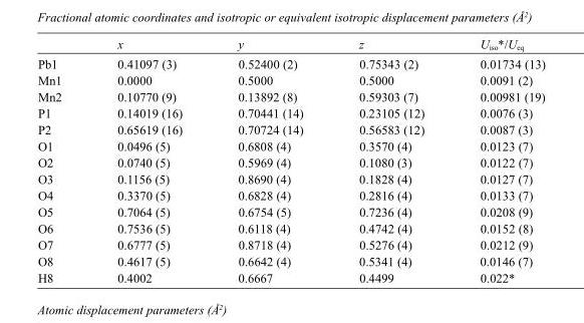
<table><thead><tr><td></td><td>x</td><td>y</td><td>z</td><td>U<sub>iso</sub>*/U<sub>eq</sub></td></tr></thead><tbody><tr><td>Pb1</td><td>0.41097 (3)</td><td>0.52400 (2)</td><td>0.75343 (2)</td><td>0.01734 (13)</td></tr><tr><td>Mn1</td><td>0.0000</td><td>0.5000</td><td>0.5000</td><td>0.0091 (2)</td></tr><tr><td>Mn2</td><td>0.10770 (9)</td><td>0.13892 (8)</td><td>0.59303 (7)</td><td>0.00981 (19)</td></tr><tr><td>P1</td><td>0.14019 (16)</td><td>0.70441 (14)</td><td>0.23105 (12)</td><td>0.0076 (3)</td></tr><tr><td>P2</td><td>0.65619 (16)</td><td>0.70724 (14)</td><td>0.56583 (12)</td><td>0.0087 (3)</td></tr><tr><td>O1</td><td>0.0496 (5)</td><td>0.6808 (4)</td><td>0.3570 (4)</td><td>0.0123 (7)</td></tr><tr><td>O2</td><td>0.0740 (5)</td><td>0.5969 (4)</td><td>0.1080 (3)</td><td>0.0122 (7)</td></tr><tr><td>O3</td><td>0.1156 (5)</td><td>0.8690 (4)</td><td>0.1828 (4)</td><td>0.0127 (7)</td></tr><tr><td>O4</td><td>0.3370 (5)</td><td>0.6828 (4)</td><td>0.2816 (4)</td><td>0.0133 (7)</td></tr><tr><td>O5</td><td>0.7064 (5)</td><td>0.6754 (5)</td><td>0.7236 (4)</td><td>0.0208 (9)</td></tr><tr><td>O6</td><td>0.7536 (5)</td><td>0.6118 (4)</td><td>0.4742 (4)</td><td>0.0152 (8)</td></tr><tr><td>O7</td><td>0.6777 (5)</td><td>0.8718 (4)</td><td>0.5276 (4)</td><td>0.0212 (9)</td></tr><tr><td>O8</td><td>0.4617 (5)</td><td>0.6642 (4)</td><td>0.5341 (4)</td><td>0.0146 (7)</td></tr><tr><td>H8</td><td>0.4002</td><td>0.6667</td><td>0.4499</td><td>0.022*</td></tr></tbody></table>